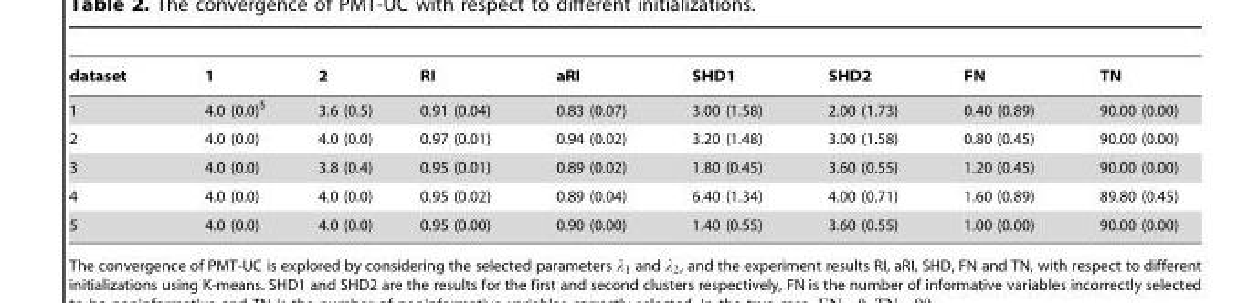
<table><thead><tr><td>dataset</td><td>1</td><td>2</td><td>RI</td><td>aRI</td><td>SHD1</td><td>SHD2</td><td>FN</td><td>TN</td></tr></thead><tbody><tr><td>1</td><td>4.0 (0.0)§</td><td>3.6 (0.5)</td><td>0.91 (0.04)</td><td>0.83 (0.07)</td><td>3.00 (1.58)</td><td>2.00 (1.73)</td><td>0.40 (0.89)</td><td>90.00 (0.00)</td></tr><tr><td>2</td><td>4.0 (0.0)</td><td>4.0 (0.0)</td><td>0.97 (0.01)</td><td>0.94 (0.02)</td><td>3.20 (1.48)</td><td>3.00 (1.58)</td><td>0.80 (0.45)</td><td>90.00 (0.00)</td></tr><tr><td>3</td><td>4.0 (0.0)</td><td>3.8 (0.4)</td><td>0.95 (0.01)</td><td>0.89 (0.02)</td><td>1.80 (0.45)</td><td>3.60 (0.55)</td><td>1.20 (0.45)</td><td>90.00 (0.00)</td></tr><tr><td>4</td><td>4.0 (0.0)</td><td>4.0 (0.0)</td><td>0.95 (0.02)</td><td>0.89 (0.04)</td><td>6.40 (1.34)</td><td>4.00 (0.71)</td><td>1.60 (0.89)</td><td>89.80 (0.45)</td></tr><tr><td>5</td><td>4.0 (0.0)</td><td>4.0 (0.0)</td><td>0.95 (0.00)</td><td>0.90 (0.00)</td><td>1.40 (0.55)</td><td>3.60 (0.55)</td><td>1.00 (0.00)</td><td>90.00 (0.00)</td></tr></tbody></table>